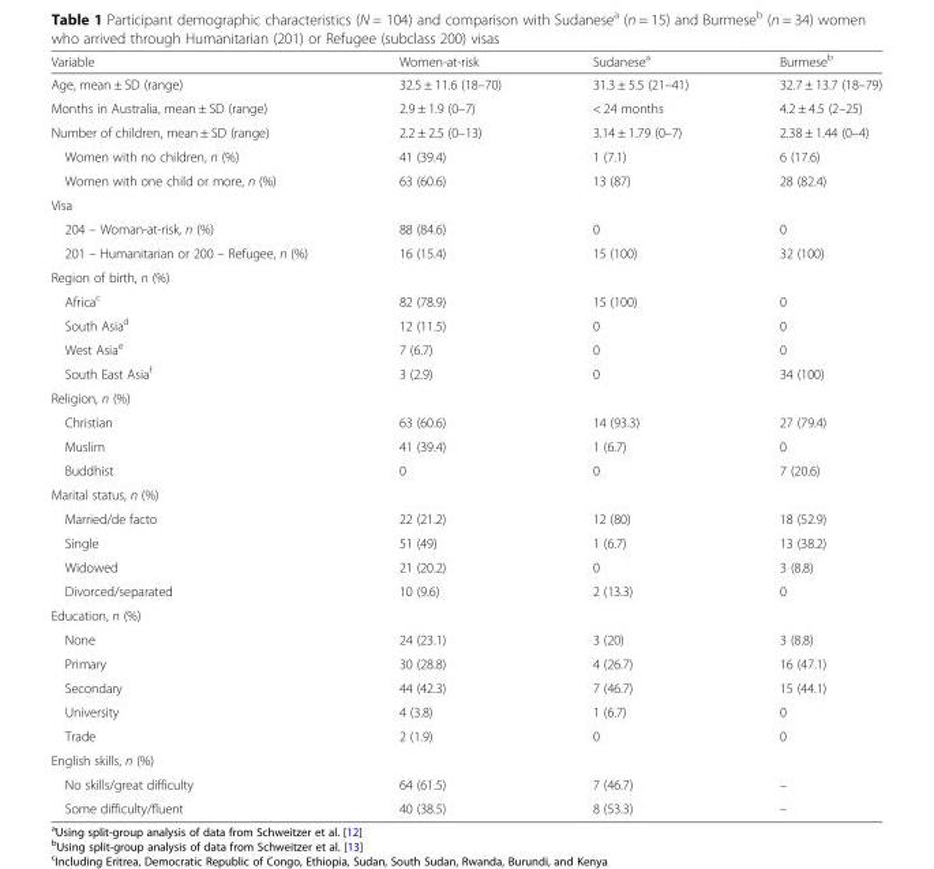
<table><thead><tr><td>Variable</td><td>Women-at-risk</td><td>Sudanese<sup>a</sup></td><td>Burmese<sup>b</sup></td></tr></thead><tbody><tr><td>Age, mean ± SD (range)</td><td>32.5 ± 11.6 (18–70)</td><td>31.3 ± 5.5 (21–41)</td><td>32.7 ± 13.7 (18–79)</td></tr><tr><td>Months in Australia, mean ± SD (range)</td><td>2.9 ± 1.9 (0–7)</td><td>&lt; 24 months</td><td>4.2 ± 4.5 (2–25)</td></tr><tr><td>Number of children, mean ± SD (range)</td><td>2.2 ± 2.5 (0–13)</td><td>3.14 ± 1.79 (0–7)</td><td>2.38 ± 1.44 (0–4)</td></tr><tr><td>Women with no children, n (%)</td><td>41 (39.4)</td><td>1 (7.1)</td><td>6 (17.6)</td></tr><tr><td>Women with one child or more, n (%)</td><td>63 (60.6)</td><td>13 (87)</td><td>28 (82.4)</td></tr><tr><td colspan="4">Visa</td></tr><tr><td>204 – Woman-at-risk, n (%)</td><td>88 (84.6)</td><td>0</td><td>0</td></tr><tr><td>201 – Humanitarian or 200 – Refugee, n (%)</td><td>16 (15.4)</td><td>15 (100)</td><td>32 (100)</td></tr><tr><td colspan="4">Region of birth, n (%)</td></tr><tr><td>Africa<sup>c</sup></td><td>82 (78.9)</td><td>15 (100)</td><td>0</td></tr><tr><td>South Asia<sup>d</sup></td><td>12 (11.5)</td><td>0</td><td>0</td></tr><tr><td>West Asia<sup>e</sup></td><td>7 (6.7)</td><td>0</td><td>0</td></tr><tr><td>South East Asia<sup>f</sup></td><td>3 (2.9)</td><td>0</td><td>34 (100)</td></tr><tr><td colspan="4">Religion, n (%)</td></tr><tr><td>Christian</td><td>63 (60.6)</td><td>14 (93.3)</td><td>27 (79.4)</td></tr><tr><td>Muslim</td><td>41 (39.4)</td><td>1 (6.7)</td><td>0</td></tr><tr><td>Buddhist</td><td>0</td><td>0</td><td>7 (20.6)</td></tr><tr><td colspan="4">Marital status, n (%)</td></tr><tr><td>Married/de facto</td><td>22 (21.2)</td><td>12 (80)</td><td>18 (52.9)</td></tr><tr><td>Single</td><td>51 (49)</td><td>1 (6.7)</td><td>13 (38.2)</td></tr><tr><td>Widowed</td><td>21 (20.2)</td><td>0</td><td>3 (8.8)</td></tr><tr><td>Divorced/separated</td><td>10 (9.6)</td><td>2 (13.3)</td><td>0</td></tr><tr><td colspan="4">Education, n (%)</td></tr><tr><td>None</td><td>24 (23.1)</td><td>3 (20)</td><td>3 (8.8)</td></tr><tr><td>Primary</td><td>30 (28.8)</td><td>4 (26.7)</td><td>16 (47.1)</td></tr><tr><td>Secondary</td><td>44 (42.3)</td><td>7 (46.7)</td><td>15 (44.1)</td></tr><tr><td>University</td><td>4 (3.8)</td><td>1 (6.7)</td><td>0</td></tr><tr><td>Trade</td><td>2 (1.9)</td><td>0</td><td>0</td></tr><tr><td colspan="4">English skills, n (%)</td></tr><tr><td>No skills/great difficulty</td><td>64 (61.5)</td><td>7 (46.7)</td><td>–</td></tr><tr><td>Some difficulty/fluent</td><td>40 (38.5)</td><td>8 (53.3)</td><td>–</td></tr></tbody></table>